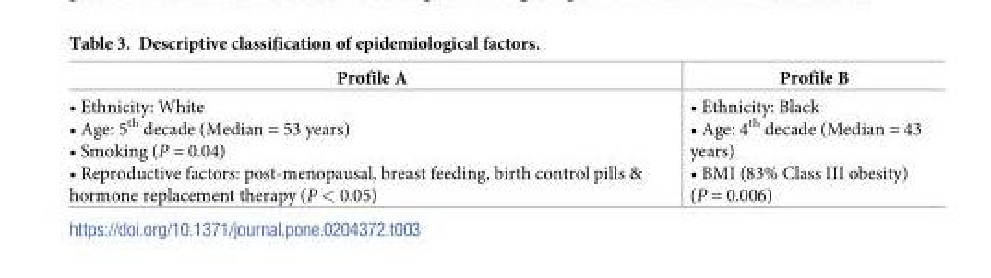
<table><thead><tr><td>Profile A</td><td>Profile B</td></tr></thead><tbody><tr><td>• Ethnicity: White • Age: 5<sup>th</sup> decade (Median = 53 years) • Smoking (P = 0.04) • Reproductive factors: post-menopausal, breast feeding, birth control pills &amp; hormone replacement therapy (P &lt; 0.05)</td><td>• Ethnicity: Black • Age: 4<sup>th</sup> decade (Median = 43 years) • BMI (83% Class III obesity) (P = 0.006)</td></tr></tbody></table>